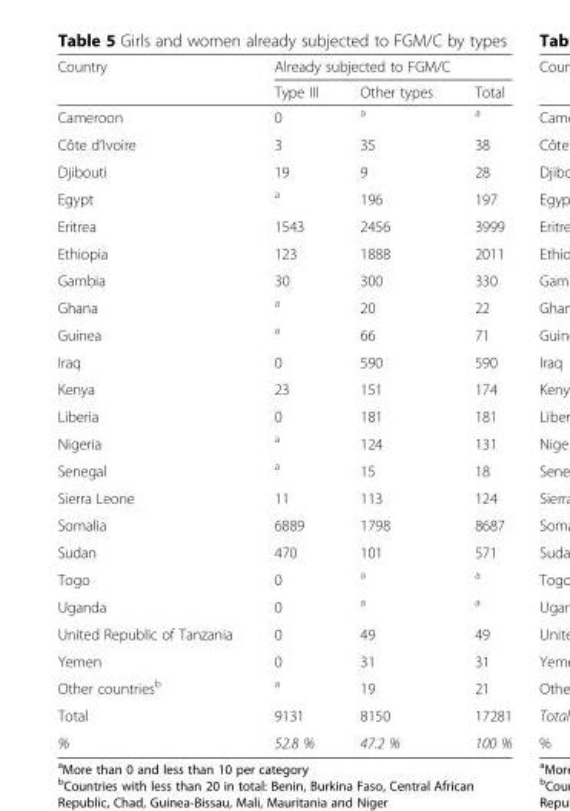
<table><thead><tr><td rowspan="2">Country</td><td colspan="3">Already subjected to FGM/C</td></tr><tr><td>Type III</td><td>Other types</td><td>Total</td></tr></thead><tbody><tr><td>Cameroon</td><td>0</td><td><sup>a</sup></td><td><sup>a</sup></td></tr><tr><td>Côte d’Ivoire</td><td>3</td><td>35</td><td>38</td></tr><tr><td>Djibouti</td><td>19</td><td>9</td><td>28</td></tr><tr><td>Egypt</td><td><sup>a</sup></td><td>196</td><td>197</td></tr><tr><td>Eritrea</td><td>1543</td><td>2456</td><td>3999</td></tr><tr><td>Ethiopia</td><td>123</td><td>1888</td><td>2011</td></tr><tr><td>Gambia</td><td>30</td><td>300</td><td>330</td></tr><tr><td>Ghana</td><td><sup>a</sup></td><td>20</td><td>22</td></tr><tr><td>Guinea</td><td><sup>a</sup></td><td>66</td><td>71</td></tr><tr><td>Iraq</td><td>0</td><td>590</td><td>590</td></tr><tr><td>Kenya</td><td>23</td><td>151</td><td>174</td></tr><tr><td>Liberia</td><td>0</td><td>181</td><td>181</td></tr><tr><td>Nigeria</td><td><sup>a</sup></td><td>124</td><td>131</td></tr><tr><td>Senegal</td><td><sup>a</sup></td><td>15</td><td>18</td></tr><tr><td>Sierra Leone</td><td>11</td><td>113</td><td>124</td></tr><tr><td>Somalia</td><td>6889</td><td>1798</td><td>8687</td></tr><tr><td>Sudan</td><td>470</td><td>101</td><td>571</td></tr><tr><td>Togo</td><td>0</td><td><sup>a</sup></td><td><sup>a</sup></td></tr><tr><td>Uganda</td><td>0</td><td><sup>a</sup></td><td><sup>a</sup></td></tr><tr><td>United Republic of Tanzania</td><td>0</td><td>49</td><td>49</td></tr><tr><td>Yemen</td><td>0</td><td>31</td><td>31</td></tr><tr><td>Other countries<sup>b</sup></td><td><sup>a</sup></td><td>19</td><td>21</td></tr><tr><td>Total</td><td>9131</td><td>8150</td><td>17281</td></tr><tr><td>%</td><td>52.8 %</td><td>47.2 %</td><td>100 %</td></tr></tbody></table>